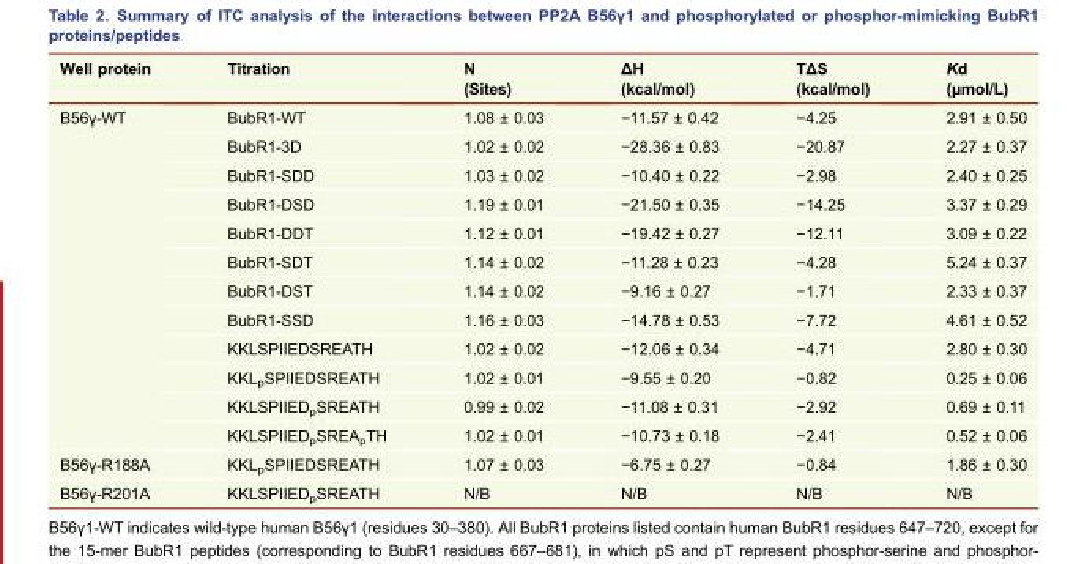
<table><thead><tr><td>Well protein</td><td>Titration</td><td>N (Sites)</td><td>ΔH (kcal/mol)</td><td>TΔS (kcal/mol)</td><td>Kd (μmol/L)</td></tr></thead><tbody><tr><td rowspan="12">B56γ-WT</td><td>BubR1-WT</td><td>1.08 ± 0.03</td><td>−11.57 ± 0.42</td><td>−4.25</td><td>2.91 ± 0.50</td></tr><tr><td>BubR1-3D</td><td>1.02 ± 0.02</td><td>−28.36 ± 0.83</td><td>−20.87</td><td>2.27 ± 0.37</td></tr><tr><td>BubR1-SDD</td><td>1.03 ± 0.02</td><td>−10.40 ± 0.22</td><td>−2.98</td><td>2.40 ± 0.25</td></tr><tr><td>BubR1-DSD</td><td>1.19 ± 0.01</td><td>−21.50 ± 0.35</td><td>−14.25</td><td>3.37 ± 0.29</td></tr><tr><td>BubR1-DDT</td><td>1.12 ± 0.01</td><td>−19.42 ± 0.27</td><td>−12.11</td><td>3.09 ± 0.22</td></tr><tr><td>BubR1-SDT</td><td>1.14 ± 0.02</td><td>−11.28 ± 0.23</td><td>−4.28</td><td>5.24 ± 0.37</td></tr><tr><td>BubR1-DST</td><td>1.14 ± 0.02</td><td>−9.16 ± 0.27</td><td>−1.71</td><td>2.33 ± 0.37</td></tr><tr><td>BubR1-SSD</td><td>1.16 ± 0.03</td><td>−14.78 ± 0.53</td><td>−7.72</td><td>4.61 ± 0.52</td></tr><tr><td>KKLSPIIEDSREATH</td><td>1.02 ± 0.02</td><td>−12.06 ± 0.34</td><td>−4.71</td><td>2.80 ± 0.30</td></tr><tr><td>KKL<sub>p</sub>SPIIEDSREATH</td><td>1.02 ± 0.01</td><td>−9.55 ± 0.20</td><td>−0.82</td><td>0.25 ± 0.06</td></tr><tr><td>KKLSPIIED<sub>p</sub>SREATH</td><td>0.99 ± 0.02</td><td>−11.08 ± 0.31</td><td>−2.92</td><td>0.69 ± 0.11</td></tr><tr><td>KKLSPIIED<sub>p</sub>SREA<sub>p</sub>TH</td><td>1.02 ± 0.01</td><td>−10.73 ± 0.18</td><td>−2.41</td><td>0.52 ± 0.06</td></tr><tr><td>B56γ-R188A</td><td>KKL<sub>p</sub>SPIIEDSREATH</td><td>1.07 ± 0.03</td><td>−6.75 ± 0.27</td><td>−0.84</td><td>1.86 ± 0.30</td></tr><tr><td>B56γ-R201A</td><td>KKLSPIIED<sub>p</sub>SREATH</td><td>N/B</td><td>N/B</td><td>N/B</td><td>N/B</td></tr></tbody></table>